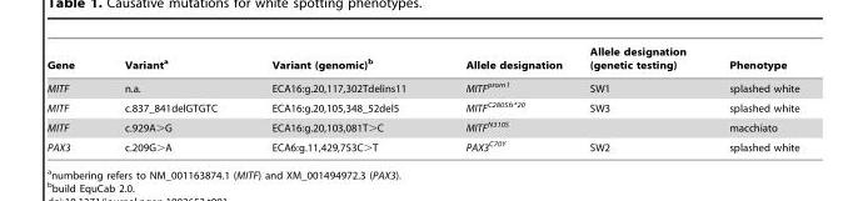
<table><thead><tr><td>Gene</td><td>Variant<sup>a</sup></td><td>Variant (genomic)<sup>b</sup></td><td>Allele designation</td><td>Allele designation (genetic testing)</td><td>Phenotype</td></tr></thead><tbody><tr><td>MITF</td><td>n.a.</td><td>ECA16:g.20,117,302Tdelins11</td><td>MITF<sup>prom1</sup></td><td>SW1</td><td>splashed white</td></tr><tr><td>MITF</td><td>c.837_841delGTGTC</td><td>ECA16:g.20,105,348_52del5</td><td>MITF<sup>C280Sfs*20</sup></td><td>SW3</td><td>splashed white</td></tr><tr><td>MITF</td><td>c.929A&gt;G</td><td>ECA16:g.20,103,081T&gt;C</td><td>MITF<sup>N310S</sup></td><td></td><td>macchiato</td></tr><tr><td>PAX3</td><td>c.209G&gt;A</td><td>ECA6:g.11,429,753C&gt;T</td><td>PAX3<sup>C70Y</sup></td><td>SW2</td><td>splashed white</td></tr></tbody></table>